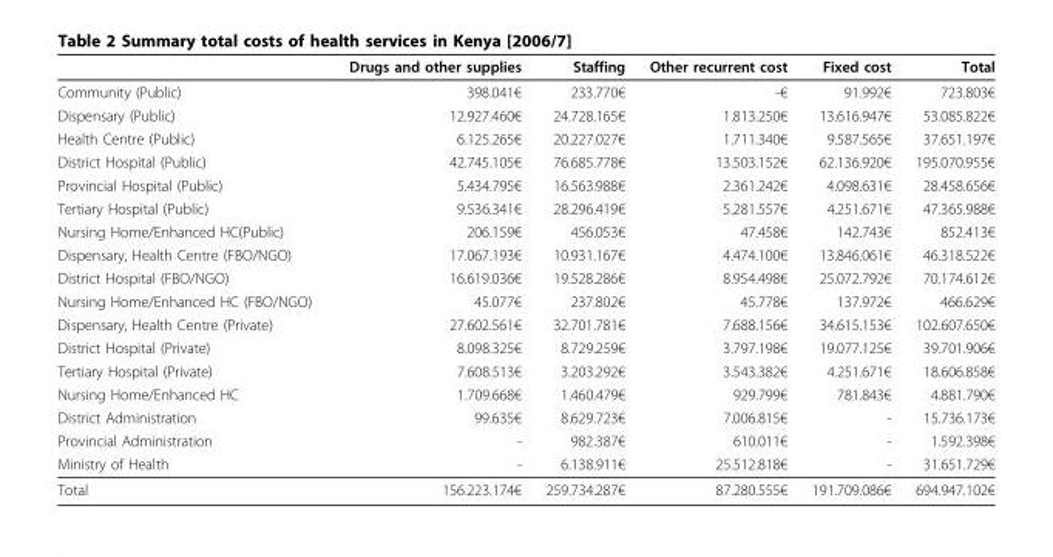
<table><thead><tr><td></td><td>Drugs and other supplies</td><td>Staffing</td><td>Other recurrent cost</td><td>Fixed cost</td><td>Total</td></tr></thead><tbody><tr><td>Community (Public)</td><td>398.041€</td><td>233.770€</td><td>-€</td><td>91.992€</td><td>723.803€</td></tr><tr><td>Dispensary (Public)</td><td>12.927.460€</td><td>24.728.165€</td><td>1.813.250€</td><td>13.616.947€</td><td>53.085.822€</td></tr><tr><td>Health Centre (Public)</td><td>6.125.265€</td><td>20.227.027€</td><td>1.711.340€</td><td>9.587.565€</td><td>37.651.197€</td></tr><tr><td>District Hospital (Public)</td><td>42.745.105€</td><td>76.685.778€</td><td>13.503.152€</td><td>62.136.920€</td><td>195.070.955€</td></tr><tr><td>Provincial Hospital (Public)</td><td>5.434.795€</td><td>16.563.988€</td><td>2.361.242€</td><td>4.098.631€</td><td>28.458.656€</td></tr><tr><td>Tertiary Hospital (Public)</td><td>9.536.341€</td><td>28.296.419€</td><td>5.281.557€</td><td>4.251.671€</td><td>47.365.988€</td></tr><tr><td>Nursing Home/Enhanced HC(Public)</td><td>206.159€</td><td>456.053€</td><td>47.458€</td><td>142.743€</td><td>852.413€</td></tr><tr><td>Dispensary, Health Centre (FBO/NGO)</td><td>17.067.193€</td><td>10.931.167€</td><td>4.474.100€</td><td>13.846.061€</td><td>46.318.522€</td></tr><tr><td>District Hospital (FBO/NGO)</td><td>16.619.036€</td><td>19.528.286€</td><td>8.954.498€</td><td>25.072.792€</td><td>70.174.612€</td></tr><tr><td>Nursing Home/Enhanced HC (FBO/NGO)</td><td>45.077€</td><td>237.802€</td><td>45.778€</td><td>137.972€</td><td>466.629€</td></tr><tr><td>Dispensary, Health Centre (Private)</td><td>27.602.561€</td><td>32.701.781€</td><td>7.688.156€</td><td>34.615.153€</td><td>102.607.650€</td></tr><tr><td>District Hospital (Private)</td><td>8.098.325€</td><td>8.729.259€</td><td>3.797.198€</td><td>19.077.125€</td><td>39.701.906€</td></tr><tr><td>Tertiary Hospital (Private)</td><td>7.608.513€</td><td>3.203.292€</td><td>3.543.382€</td><td>4.251.671€</td><td>18.606.858€</td></tr><tr><td>Nursing Home/Enhanced HC</td><td>1.709.668€</td><td>1.460.479€</td><td>929.799€</td><td>781.843€</td><td>4.881.790€</td></tr><tr><td>District Administration</td><td>99.635€</td><td>8.629.723€</td><td>7.006.815€</td><td>-</td><td>15.736.173€</td></tr><tr><td>Provincial Administration</td><td>-</td><td>982.387€</td><td>610.011€</td><td>-</td><td>1.592.398€</td></tr><tr><td>Ministry of Health</td><td>-</td><td>6.138.911€</td><td>25.512.818€</td><td>-</td><td>31.651.729€</td></tr><tr><td>Total</td><td>156.223.174€</td><td>259.734.287€</td><td>87.280.555€</td><td>191.709.086€</td><td>694.947.102€</td></tr></tbody></table>